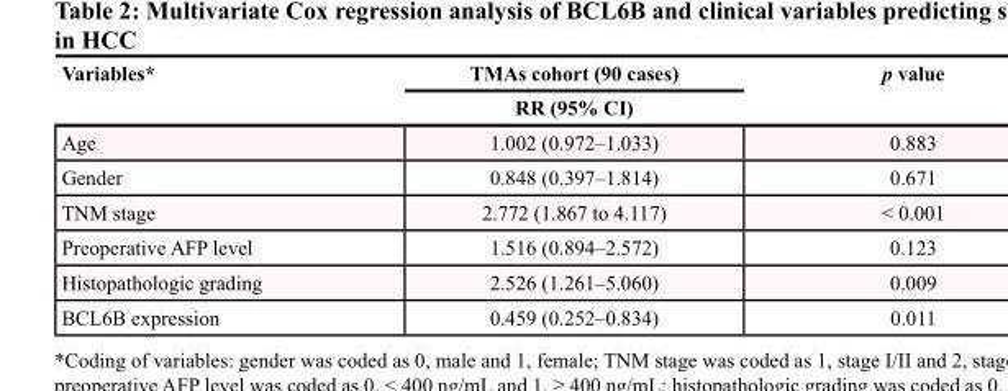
<table><thead><tr><td rowspan="2">Variables*</td><td rowspan="2">TMAs cohort (90 cases) RR (95% CI)</td><td rowspan="2">p value</td></tr><tr></tr></thead><tbody><tr><td>Age</td><td>1.002 (0.972–1.033)</td><td>0.883</td></tr><tr><td>Gender</td><td>0.848 (0.397–1.814)</td><td>0.671</td></tr><tr><td>TNM stage</td><td>2.772 (1.867 to 4.117)</td><td>&lt; 0.001</td></tr><tr><td>Preoperative AFP level</td><td>1.516 (0.894–2.572)</td><td>0.123</td></tr><tr><td>Histopathologic grading</td><td>2.526 (1.261–5.060)</td><td>0.009</td></tr><tr><td>BCL6B expression</td><td>0.459 (0.252–0.834)</td><td>0.011</td></tr></tbody></table>